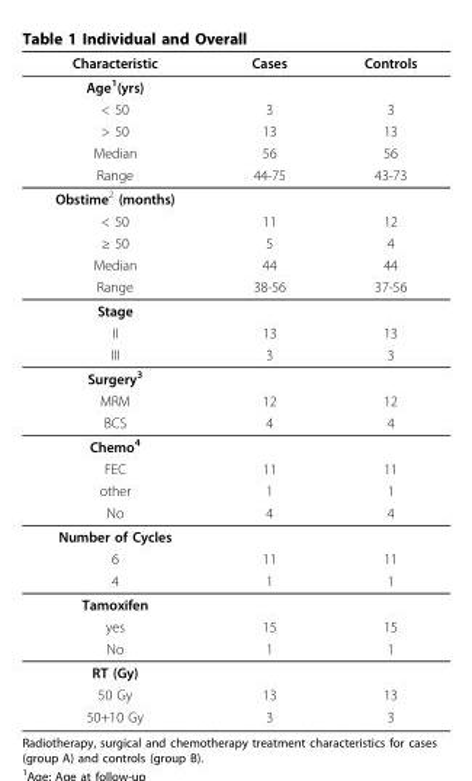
<table><thead><tr><td>Characteristic</td><td>Cases</td><td>Controls</td></tr></thead><tbody><tr><td colspan="3">Age1(yrs)</td></tr><tr><td>&lt; 50</td><td>3</td><td>3</td></tr><tr><td>&gt; 50</td><td>13</td><td>13</td></tr><tr><td>Median</td><td>56</td><td>56</td></tr><tr><td>Range</td><td>44-75</td><td>43-73</td></tr><tr><td colspan="3">Obstime2 (months)</td></tr><tr><td>&lt; 50</td><td>11</td><td>12</td></tr><tr><td>≥ 50</td><td>5</td><td>4</td></tr><tr><td>Median</td><td>44</td><td>44</td></tr><tr><td>Range</td><td>38-56</td><td>37-56</td></tr><tr><td colspan="3">Stage</td></tr><tr><td>II</td><td>13</td><td>13</td></tr><tr><td>III</td><td>3</td><td>3</td></tr><tr><td colspan="3">Surgery3</td></tr><tr><td>MRM</td><td>12</td><td>12</td></tr><tr><td>BCS</td><td>4</td><td>4</td></tr><tr><td colspan="3">Chemo4</td></tr><tr><td>FEC</td><td>11</td><td>11</td></tr><tr><td>other</td><td>1</td><td>1</td></tr><tr><td>No</td><td>4</td><td>4</td></tr><tr><td colspan="3">Number of Cycles</td></tr><tr><td>6</td><td>11</td><td>11</td></tr><tr><td>4</td><td>1</td><td>1</td></tr><tr><td colspan="3">Tamoxifen</td></tr><tr><td>yes</td><td>15</td><td>15</td></tr><tr><td>No</td><td>1</td><td>1</td></tr><tr><td colspan="3">RT (Gy)</td></tr><tr><td>50 Gy</td><td>13</td><td>13</td></tr><tr><td>50+10 Gy</td><td>3</td><td>3</td></tr></tbody></table>